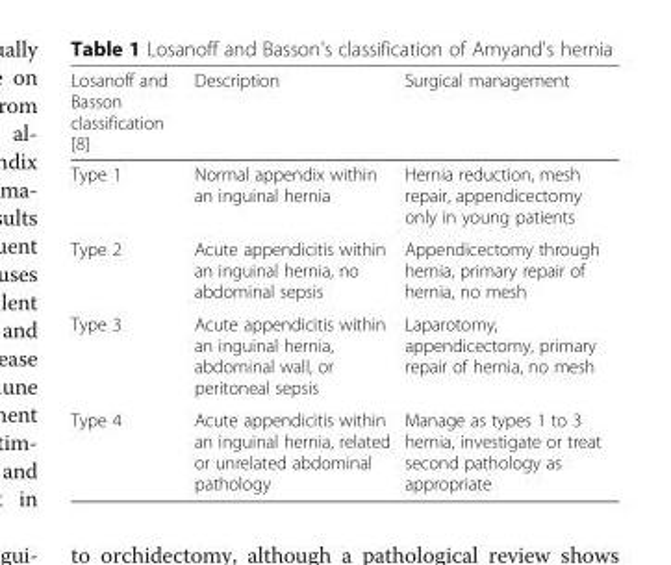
<table><thead><tr><td>Losanoff and Basson classification [8]</td><td>Description</td><td>Surgical management</td></tr></thead><tbody><tr><td>Type 1</td><td>Normal appendix within an inguinal hernia</td><td>Hernia reduction, mesh repair, appendicectomy only in young patients</td></tr><tr><td>Type 2</td><td>Acute appendicitis within an inguinal hernia, no abdominal sepsis</td><td>Appendicectomy through hernia, primary repair of hernia, no mesh</td></tr><tr><td>Type 3</td><td>Acute appendicitis within an inguinal hernia, abdominal wall, or peritoneal sepsis</td><td>Laparotomy, appendicectomy, primary repair of hernia, no mesh</td></tr><tr><td>Type 4</td><td>Acute appendicitis within an inguinal hernia, related or unrelated abdominal pathology</td><td>Manage as types 1 to 3 hernia, investigate or treat second pathology as appropriate</td></tr></tbody></table>